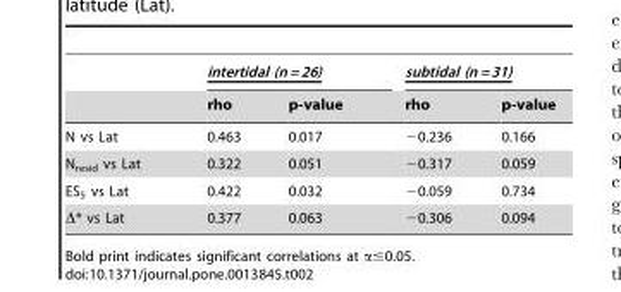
<table><thead><tr><td rowspan="2"></td><td colspan="2">intertidal (n = 26)</td><td colspan="2">subtidal (n = 31)</td></tr><tr><td>rho</td><td>p-value</td><td>rho</td><td>p-value</td></tr></thead><tbody><tr><td>N vs Lat</td><td>0.463</td><td>0.017</td><td>−0.236</td><td>0.166</td></tr><tr><td>N<sub>resid</sub> vs Lat</td><td>0.322</td><td>0.051</td><td>−0.317</td><td>0.059</td></tr><tr><td>ES<sub>5</sub> vs Lat</td><td>0.422</td><td>0.032</td><td>−0.059</td><td>0.734</td></tr><tr><td>Δ* vs Lat</td><td>0.377</td><td>0.063</td><td>−0.306</td><td>0.094</td></tr></tbody></table>